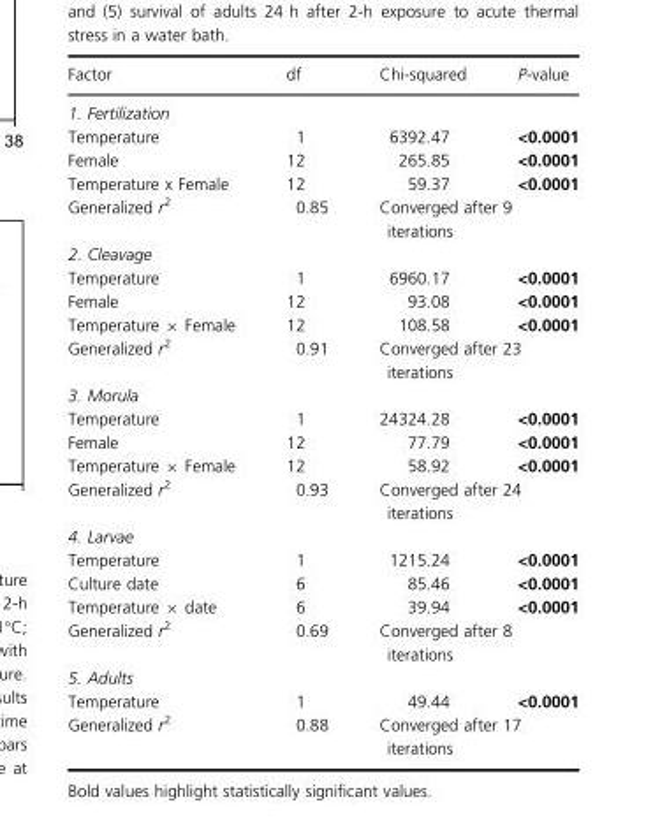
<table><thead><tr><td>Factor</td><td>df</td><td>Chi-squared</td><td>P-value</td></tr></thead><tbody><tr><td colspan="4">1. Fertilization</td></tr><tr><td>Temperature</td><td>1</td><td>6392.47</td><td>&lt;0.0001</td></tr><tr><td>Female</td><td>12</td><td>265.85</td><td>&lt;0.0001</td></tr><tr><td>Temperature x Female</td><td>12</td><td>59.37</td><td>&lt;0.0001</td></tr><tr><td>Generalized r<sup>2</sup></td><td>0.85</td><td colspan="2">Converged after 9 iterations</td></tr><tr><td colspan="4">2. Cleavage</td></tr><tr><td>Temperature</td><td>1</td><td>6960.17</td><td>&lt;0.0001</td></tr><tr><td>Female</td><td>12</td><td>93.08</td><td>&lt;0.0001</td></tr><tr><td>Temperature × Female</td><td>12</td><td>108.58</td><td>&lt;0.0001</td></tr><tr><td>Generalized r<sup>2</sup></td><td>0.91</td><td colspan="2">Converged after 23 iterations</td></tr><tr><td colspan="4">3. Morula</td></tr><tr><td>Temperature</td><td>1</td><td>24324.28</td><td>&lt;0.0001</td></tr><tr><td>Female</td><td>12</td><td>77.79</td><td>&lt;0.0001</td></tr><tr><td>Temperature × Female</td><td>12</td><td>58.92</td><td>&lt;0.0001</td></tr><tr><td>Generalized r<sup>2</sup></td><td>0.93</td><td colspan="2">Converged after 24 iterations</td></tr><tr><td colspan="4">4. Larvae</td></tr><tr><td>Temperature</td><td>1</td><td>1215.24</td><td>&lt;0.0001</td></tr><tr><td>Culture date</td><td>6</td><td>85.46</td><td>&lt;0.0001</td></tr><tr><td>Temperature × date</td><td>6</td><td>39.94</td><td>&lt;0.0001</td></tr><tr><td>Generalized r<sup>2</sup></td><td>0.69</td><td colspan="2">Converged after 8 iterations</td></tr><tr><td colspan="4">5. Adults</td></tr><tr><td>Temperature</td><td>1</td><td>49.44</td><td>&lt;0.0001</td></tr><tr><td>Generalized r<sup>2</sup></td><td>0.88</td><td colspan="2">Converged after 17 iterations</td></tr></tbody></table>